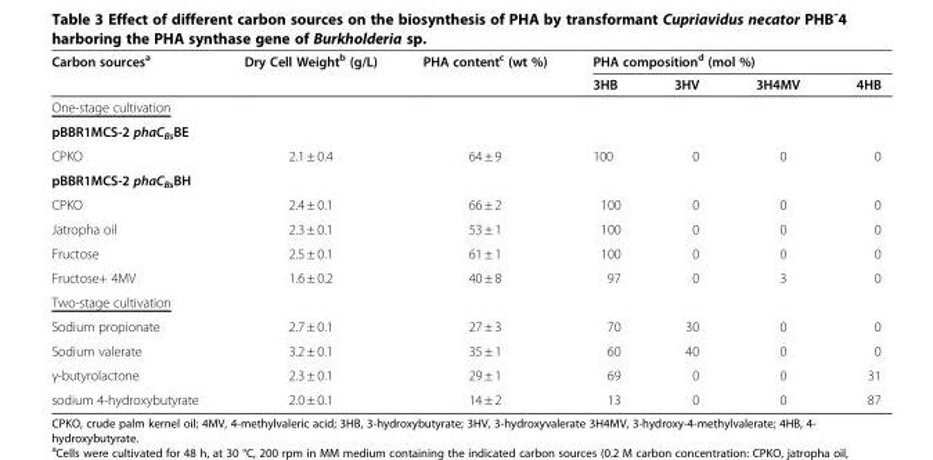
<table><thead><tr><td rowspan="2">Carbon sources<sup>a</sup></td><td rowspan="2">Dry Cell Weight<sup>b</sup> (g/L)</td><td rowspan="2">PHA content<sup>c</sup> (wt %)</td><td colspan="4">PHA composition<sup>d</sup> (mol %)</td></tr><tr><td>3HB</td><td>3HV</td><td>3H4MV</td><td>4HB</td></tr></thead><tbody><tr><td colspan="7">One-stage cultivation</td></tr><tr><td colspan="7">pBBR1MCS-2 phaC<sub>Bs</sub>BE</td></tr><tr><td>CPKO</td><td>2.1 ± 0.4</td><td>64 ± 9</td><td>100</td><td>0</td><td>0</td><td>0</td></tr><tr><td colspan="7">pBBR1MCS-2 phaC<sub>Bs</sub>BH</td></tr><tr><td>CPKO</td><td>2.4 ± 0.1</td><td>66 ± 2</td><td>100</td><td>0</td><td>0</td><td>0</td></tr><tr><td>Jatropha oil</td><td>2.3 ± 0.1</td><td>53 ± 1</td><td>100</td><td>0</td><td>0</td><td>0</td></tr><tr><td>Fructose</td><td>2.5 ± 0.1</td><td>61 ± 1</td><td>100</td><td>0</td><td>0</td><td>0</td></tr><tr><td>Fructose+ 4MV</td><td>1.6 ± 0.2</td><td>40 ± 8</td><td>97</td><td>0</td><td>3</td><td>0</td></tr><tr><td colspan="7">Two-stage cultivation</td></tr><tr><td>Sodium propionate</td><td>2.7 ± 0.1</td><td>27 ± 3</td><td>70</td><td>30</td><td>0</td><td>0</td></tr><tr><td>Sodium valerate</td><td>3.2 ± 0.1</td><td>35 ± 1</td><td>60</td><td>40</td><td>0</td><td>0</td></tr><tr><td>γ-butyrolactone</td><td>2.3 ± 0.1</td><td>29 ± 1</td><td>69</td><td>0</td><td>0</td><td>31</td></tr><tr><td>sodium 4-hydroxybutyrate</td><td>2.0 ± 0.1</td><td>14 ± 2</td><td>13</td><td>0</td><td>0</td><td>87</td></tr></tbody></table>